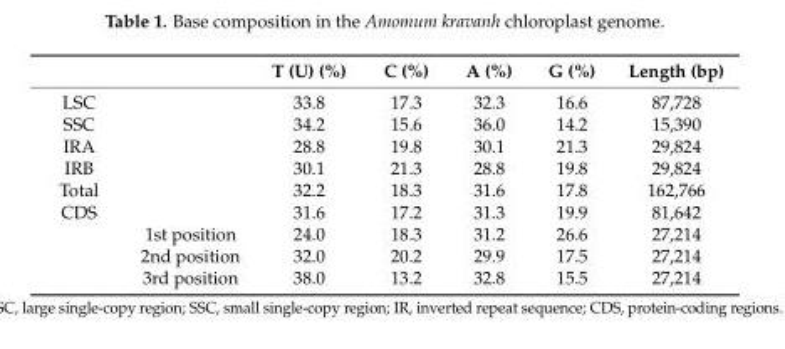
<table><thead><tr><td></td><td></td><td>T (U) (%)</td><td>C (%)</td><td>A (%)</td><td>G (%)</td><td>Length (bp)</td></tr></thead><tbody><tr><td>LSC</td><td></td><td>33.8</td><td>17.3</td><td>32.3</td><td>16.6</td><td>87,728</td></tr><tr><td>SSC</td><td></td><td>34.2</td><td>15.6</td><td>36.0</td><td>14.2</td><td>15,390</td></tr><tr><td>IRA</td><td></td><td>28.8</td><td>19.8</td><td>30.1</td><td>21.3</td><td>29,824</td></tr><tr><td>IRB</td><td></td><td>30.1</td><td>21.3</td><td>28.8</td><td>19.8</td><td>29,824</td></tr><tr><td>Total</td><td></td><td>32.2</td><td>18.3</td><td>31.6</td><td>17.8</td><td>162,766</td></tr><tr><td rowspan="4">CDS</td><td></td><td>31.6</td><td>17.2</td><td>31.3</td><td>19.9</td><td>81,642</td></tr><tr><td>1st position</td><td>24.0</td><td>18.3</td><td>31.2</td><td>26.6</td><td>27,214</td></tr><tr><td>2nd position</td><td>32.0</td><td>20.2</td><td>29.9</td><td>17.5</td><td>27,214</td></tr><tr><td>3rd position</td><td>38.0</td><td>13.2</td><td>32.8</td><td>15.5</td><td>27,214</td></tr></tbody></table>